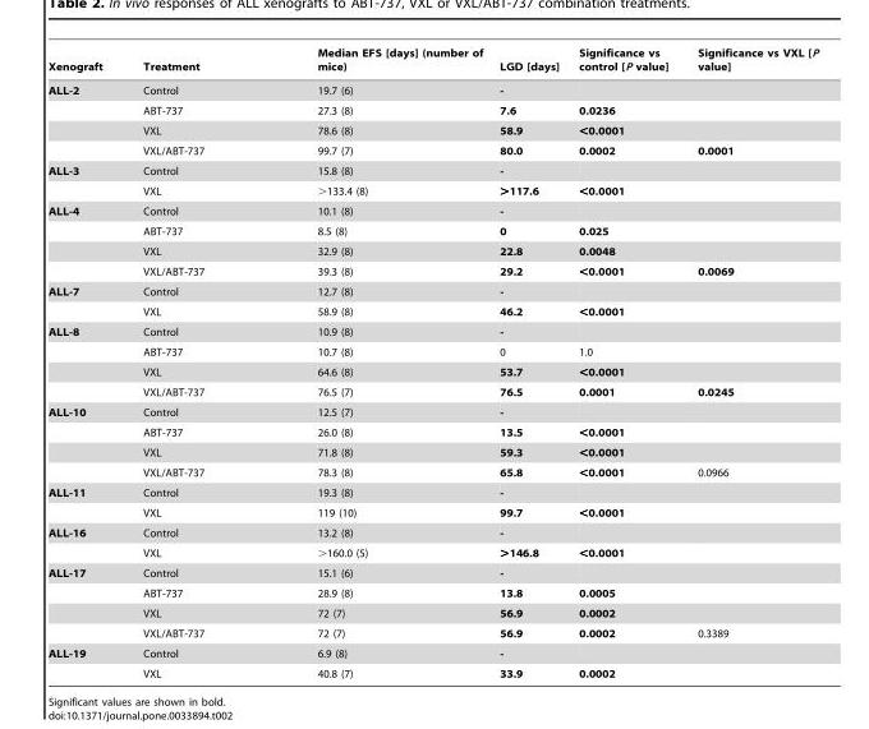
<table><thead><tr><td>Xenograft</td><td>Treatment</td><td>Median EFS [days] (number of mice)</td><td>LGD [days]</td><td>Significance vs control [P value]</td><td>Significance vs VXL [P value]</td></tr></thead><tbody><tr><td rowspan="4">ALL-2</td><td>Control</td><td>19.7 (6)</td><td>-</td><td></td><td></td></tr><tr><td>ABT-737</td><td>27.3 (8)</td><td>7.6</td><td>0.0236</td><td></td></tr><tr><td>VXL</td><td>78.6 (8)</td><td>58.9</td><td>&lt;0.0001</td><td></td></tr><tr><td>VXL/ABT-737</td><td>99.7 (7)</td><td>80.0</td><td>0.0002</td><td>0.0001</td></tr><tr><td rowspan="2">ALL-3</td><td>Control</td><td>15.8 (8)</td><td>-</td><td></td><td></td></tr><tr><td>VXL</td><td>&gt;133.4 (8)</td><td>&gt;117.6</td><td>&lt;0.0001</td><td></td></tr><tr><td rowspan="4">ALL-4</td><td>Control</td><td>10.1 (8)</td><td>-</td><td></td><td></td></tr><tr><td>ABT-737</td><td>8.5 (8)</td><td>0</td><td>0.025</td><td></td></tr><tr><td>VXL</td><td>32.9 (8)</td><td>22.8</td><td>0.0048</td><td></td></tr><tr><td>VXL/ABT-737</td><td>39.3 (8)</td><td>29.2</td><td>&lt;0.0001</td><td>0.0069</td></tr><tr><td rowspan="2">ALL-7</td><td>Control</td><td>12.7 (8)</td><td>-</td><td></td><td></td></tr><tr><td>VXL</td><td>58.9 (8)</td><td>46.2</td><td>&lt;0.0001</td><td></td></tr><tr><td rowspan="4">ALL-8</td><td>Control</td><td>10.9 (8)</td><td>-</td><td></td><td></td></tr><tr><td>ABT-737</td><td>10.7 (8)</td><td>0</td><td>1.0</td><td></td></tr><tr><td>VXL</td><td>64.6 (8)</td><td>53.7</td><td>&lt;0.0001</td><td></td></tr><tr><td>VXL/ABT-737</td><td>76.5 (7)</td><td>76.5</td><td>0.0001</td><td>0.0245</td></tr><tr><td rowspan="4">ALL-10</td><td>Control</td><td>12.5 (7)</td><td>-</td><td></td><td></td></tr><tr><td>ABT-737</td><td>26.0 (8)</td><td>13.5</td><td>&lt;0.0001</td><td></td></tr><tr><td>VXL</td><td>71.8 (8)</td><td>59.3</td><td>&lt;0.0001</td><td></td></tr><tr><td>VXL/ABT-737</td><td>78.3 (8)</td><td>65.8</td><td>&lt;0.0001</td><td>0.0966</td></tr><tr><td rowspan="2">ALL-11</td><td>Control</td><td>19.3 (8)</td><td>-</td><td></td><td></td></tr><tr><td>VXL</td><td>119 (10)</td><td>99.7</td><td>&lt;0.0001</td><td></td></tr><tr><td rowspan="2">ALL-16</td><td>Control</td><td>13.2 (8)</td><td>-</td><td></td><td></td></tr><tr><td>VXL</td><td>&gt;160.0 (5)</td><td>&gt;146.8</td><td>&lt;0.0001</td><td></td></tr><tr><td rowspan="4">ALL-17</td><td>Control</td><td>15.1 (6)</td><td>-</td><td></td><td></td></tr><tr><td>ABT-737</td><td>28.9 (8)</td><td>13.8</td><td>0.0005</td><td></td></tr><tr><td>VXL</td><td>72 (7)</td><td>56.9</td><td>0.0002</td><td></td></tr><tr><td>VXL/ABT-737</td><td>72 (7)</td><td>56.9</td><td>0.0002</td><td>0.3389</td></tr><tr><td rowspan="2">ALL-19</td><td>Control</td><td>6.9 (8)</td><td>-</td><td></td><td></td></tr><tr><td>VXL</td><td>40.8 (7)</td><td>33.9</td><td>0.0002</td><td></td></tr></tbody></table>